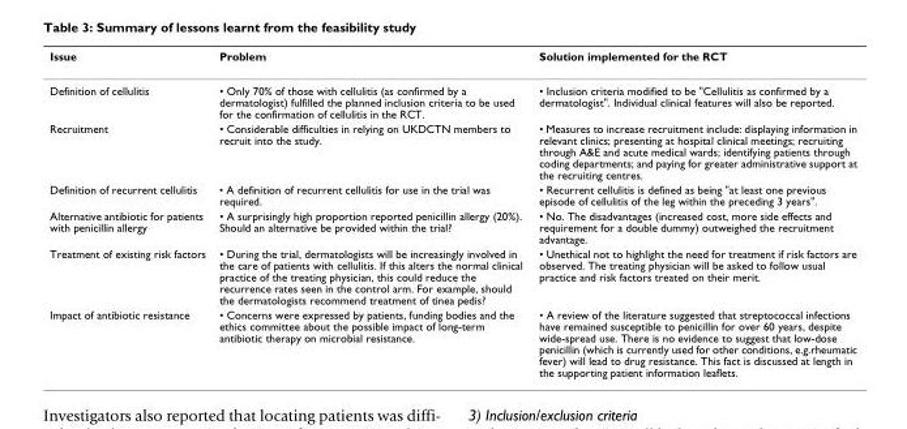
<table><thead><tr><td>Issue</td><td>Problem</td><td>Solution implemented for the RCT</td></tr></thead><tbody><tr><td>Definition of cellulitis</td><td>• Only 70% of those with cellulitis (as confirmed by a dermatologist) fulfilled the planned inclusion criteria to be used for the confirmation of cellulitis in the RCT.</td><td>• Inclusion criteria modified to be &quot;Cellulitis as confirmed by a dermatologist&quot;. Individual clinical features will also be reported.</td></tr><tr><td>Recruitment</td><td>• Considerable difficulties in relying on UKDCTN members to recruit into the study.</td><td>• Measures to increase recruitment include: displaying information in relevant clinics; presenting at hospital clinical meetings; recruiting through A&amp;E and acute medical wards; identifying patients through coding departments; and paying for greater administrative support at the recruiting centres.</td></tr><tr><td>Definition of recurrent cellulitis</td><td>• A definition of recurrent cellulitis for use in the trial was required.</td><td>• Recurrent cellulitis is defined as being &quot;at least one previous episode of cellulitis of the leg within the preceding 3 years&quot;.</td></tr><tr><td>Alternative antibiotic for patients with penicillin allergy</td><td>• A surprisingly high proportion reported penicillin allergy (20%). Should an alternative be provided within the trial?</td><td>• No. The disadvantages (increased cost, more side effects and requirement for a double dummy) outweighed the recruitment advantage.</td></tr><tr><td>Treatment of existing risk factors</td><td>• During the trial, dermatologists will be increasingly involved in the care of patients with cellulitis. If this alters the normal clinical practice of the treating physician, this could reduce the recurrence rates seen in the control arm. For example, should the dermatologists recommend treatment of tinea pedis?</td><td>• Unethical not to highlight the need for treatment if risk factors are observed. The treating physician will be asked to follow usual practice and risk factors treated on their merit.</td></tr><tr><td>Impact of antibiotic resistance</td><td>• Concerns were expressed by patients, funding bodies and the ethics committee about the possible impact of long-term antibiotic therapy on microbial resistance.</td><td>• A review of the literature suggested that streptococcal infections have remained susceptible to penicillin for over 60 years, despite wide-spread use. There is no evidence to suggest that low-dose penicillin (which is currently used for other conditions, e.g.rheumatic fever) will lead to drug resistance. This fact is discussed at length in the supporting patient information leaflets.</td></tr></tbody></table>